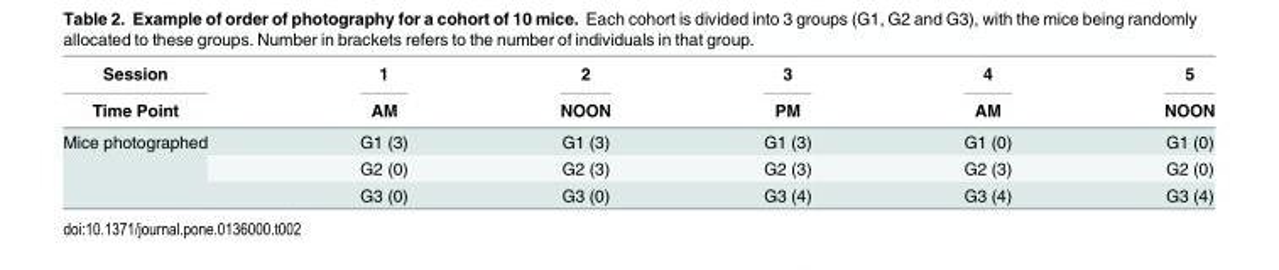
<table><thead><tr><td rowspan="2">Session Time Point</td><td rowspan="2">1 AM</td><td rowspan="2">2 NOON</td><td rowspan="2">3 PM</td><td rowspan="2">4 AM</td><td rowspan="2">5 NOON</td></tr><tr></tr></thead><tbody><tr><td rowspan="3">Mice photographed</td><td>G1 (3)</td><td>G1 (3)</td><td>G1 (3)</td><td>G1 (0)</td><td>G1 (0)</td></tr><tr><td>G2 (0)</td><td>G2 (3)</td><td>G2 (3)</td><td>G2 (3)</td><td>G2 (0)</td></tr><tr><td>G3 (0)</td><td>G3 (0)</td><td>G3 (4)</td><td>G3 (4)</td><td>G3 (4)</td></tr></tbody></table>